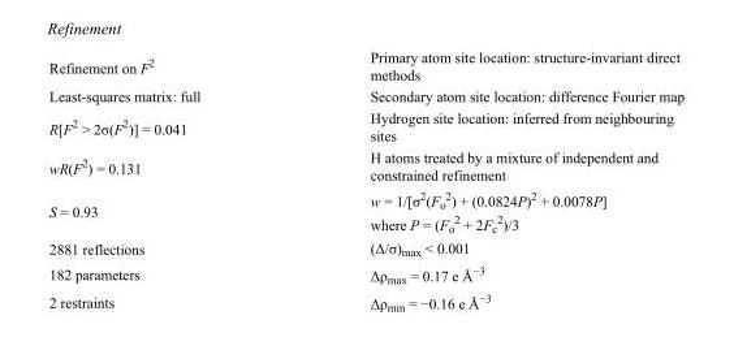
<table><tbody><tr><td>Refinement on F<sup>2</sup></td><td>Primary atom site location: structure-invariant direct methods</td></tr><tr><td>Least-squares matrix: full</td><td>Secondary atom site location: difference Fourier map</td></tr><tr><td>R[F<sup>2</sup> &gt; 2σ(F<sup>2</sup>)] = 0.041</td><td>Hydrogen site location: inferred from neighbouring sites</td></tr><tr><td>wR(F<sup>2</sup>) = 0.131</td><td>H atoms treated by a mixture of independent and constrained refinement</td></tr><tr><td>S = 0.93</td><td>w = 1/[σ<sup>2</sup>(F<sub>o</sub> <sup>2</sup>) + (0.0824P)<sup>2</sup> + 0.0078P] where P = (F<sub>o</sub> <sup>2</sup> + 2F<sub>c</sub> <sup>2</sup>)/3</td></tr><tr><td>2881 reflections</td><td>(Δ/σ)<sub>max</sub> &lt; 0.001</td></tr><tr><td>182 parameters</td><td>Δρ<sub>max</sub> = 0.17 e Å<sup>−3</sup></td></tr><tr><td>2 restraints</td><td>Δρ<sub>min</sub> = −0.16 e Å<sup>−3</sup></td></tr></tbody></table>